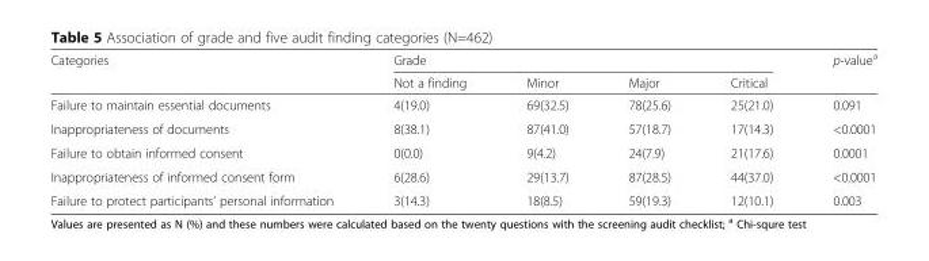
<table><thead><tr><td rowspan="2">Categories</td><td colspan="4">Grade</td><td rowspan="2">p-value<sup>a</sup></td></tr><tr><td>Not a finding</td><td>Minor</td><td>Major</td><td>Critical</td></tr></thead><tbody><tr><td>Failure to maintain essential documents</td><td>4(19.0)</td><td>69(32.5)</td><td>78(25.6)</td><td>25(21.0)</td><td>0.091</td></tr><tr><td>Inappropriateness of documents</td><td>8(38.1)</td><td>87(41.0)</td><td>57(18.7)</td><td>17(14.3)</td><td>&lt;0.0001</td></tr><tr><td>Failure to obtain informed consent</td><td>0(0.0)</td><td>9(4.2)</td><td>24(7.9)</td><td>21(17.6)</td><td>0.0001</td></tr><tr><td>Inappropriateness of informed consent form</td><td>6(28.6)</td><td>29(13.7)</td><td>87(28.5)</td><td>44(37.0)</td><td>&lt;0.0001</td></tr><tr><td>Failure to protect participants’ personal information</td><td>3(14.3)</td><td>18(8.5)</td><td>59(19.3)</td><td>12(10.1)</td><td>0.003</td></tr></tbody></table>